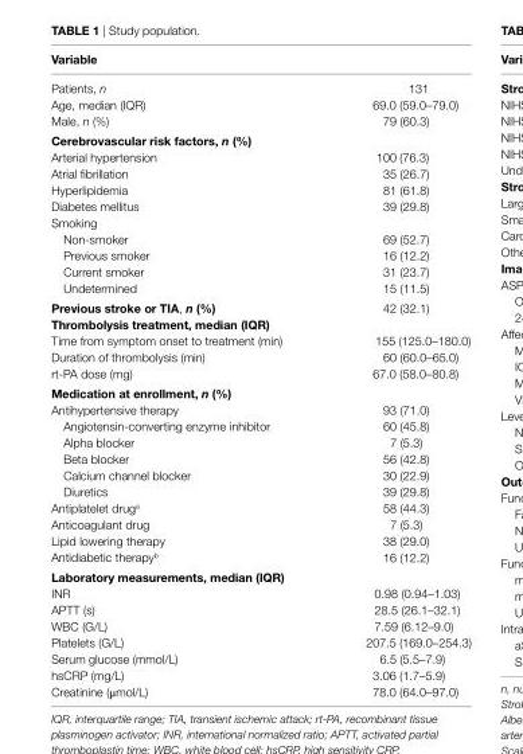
<table><thead><tr><td colspan="2">Variable</td></tr><tr><td>Patients, n</td><td>131</td></tr></thead><tbody><tr><td>Age, median (IQR)</td><td>69.0 (59.0–79.0)</td></tr><tr><td>Male, n (%)</td><td>79 (60.3)</td></tr><tr><td colspan="2">cerebrovascular risk factors, n (%)</td></tr><tr><td>Arterial hypertension</td><td>100 (76.3)</td></tr><tr><td>Atrial fibrillation</td><td>35 (26.7)</td></tr><tr><td>Hyperlipidemia</td><td>81 (61.8)</td></tr><tr><td>Diabetes mellitus</td><td>39 (29.8)</td></tr><tr><td colspan="2">Smoking</td></tr><tr><td>Non-smoker</td><td>69 (52.7)</td></tr><tr><td>Previous smoker</td><td>16 (12.2)</td></tr><tr><td>Current smoker</td><td>31 (23.7)</td></tr><tr><td>Undetermined</td><td>15 (11.5)</td></tr><tr><td>Previous stroke or Tia, n (%)</td><td>42 (32.1)</td></tr><tr><td colspan="2">Thrombolysis treatment, median (iQr)</td></tr><tr><td>Time from symptom onset to treatment (min)</td><td>155 (125.0–180.0)</td></tr><tr><td>Duration of thrombolysis (min)</td><td>60 (60.0–65.0)</td></tr><tr><td>rt-PA dose (mg)</td><td>67.0 (58.0–80.8)</td></tr><tr><td colspan="2">Medication at enrollment, n (%)</td></tr><tr><td>Antihypertensive therapy</td><td>93 (71.0)</td></tr><tr><td>Angiotensin-converting enzyme inhibitor</td><td>60 (45.8)</td></tr><tr><td>Alpha blocker</td><td>7 (5.3)</td></tr><tr><td>Beta blocker</td><td>56 (42.8)</td></tr><tr><td>Calcium channel blocker</td><td>30 (22.9)</td></tr><tr><td>Diuretics</td><td>39 (29.8)</td></tr><tr><td>Antiplatelet drug<sup>a</sup></td><td>58 (44.3)</td></tr><tr><td>Anticoagulant drug</td><td>7 (5.3)</td></tr><tr><td>Lipid lowering therapy</td><td>38 (29.0)</td></tr><tr><td>Antidiabetic therapy<sup>b</sup></td><td>16 (12.2)</td></tr><tr><td colspan="2">laboratory measurements, median (iQr)</td></tr><tr><td>INR</td><td>0.98 (0.94–1.03)</td></tr><tr><td>APTT (s)</td><td>28.5 (26.1–32.1)</td></tr><tr><td>WBC (G/L)</td><td>7.59 (6.12–9.0)</td></tr><tr><td>Platelets (G/L)</td><td>207.5 (169.0–254.3)</td></tr><tr><td>Serum glucose (mmol/L)</td><td>6.5 (5.5–7.9)</td></tr><tr><td>hsCRP (mg/L)</td><td>3.06 (1.7–5.9)</td></tr><tr><td>Creatinine (μmol/L)</td><td>78.0 (64.0–97.0)</td></tr></tbody></table>